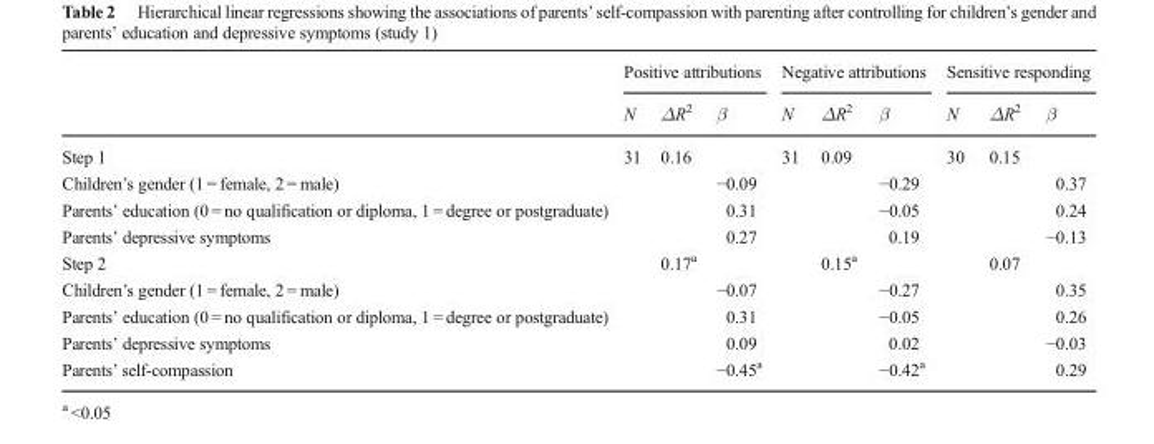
<table><thead><tr><td rowspan="2"></td><td colspan="3">Positive attributions</td><td colspan="3">Negative attributions</td><td colspan="3">Sensitive responding</td></tr><tr><td>N</td><td>ΔR<sup>2</sup></td><td>β</td><td>N</td><td>ΔR<sup>2</sup></td><td>β</td><td>N</td><td>ΔR<sup>2</sup></td><td>β</td></tr></thead><tbody><tr><td>Step 1</td><td>31</td><td>0.16</td><td></td><td>31</td><td>0.09</td><td></td><td>30</td><td>0.15</td><td></td></tr><tr><td>Children’s gender (1 = female, 2 = male)</td><td></td><td></td><td>−0.09</td><td></td><td></td><td>−0.29</td><td></td><td></td><td>0.37</td></tr><tr><td>Parents’ education (0 = no qualification or diploma, 1 = degree or postgraduate)</td><td></td><td></td><td>0.31</td><td></td><td></td><td>−0.05</td><td></td><td></td><td>0.24</td></tr><tr><td>Parents’ depressive symptoms</td><td></td><td></td><td>0.27</td><td></td><td></td><td>0.19</td><td></td><td></td><td>−0.13</td></tr><tr><td>Step 2</td><td></td><td>0.17<sup>a</sup></td><td></td><td></td><td>0.15<sup>a</sup></td><td></td><td></td><td>0.07</td><td></td></tr><tr><td>Children’s gender (1 = female, 2 = male)</td><td></td><td></td><td>−0.07</td><td></td><td></td><td>−0.27</td><td></td><td></td><td>0.35</td></tr><tr><td>Parents’ education (0 = no qualification or diploma, 1 = degree or postgraduate)</td><td></td><td></td><td>0.31</td><td></td><td></td><td>−0.05</td><td></td><td></td><td>0.26</td></tr><tr><td>Parents’ depressive symptoms</td><td></td><td></td><td>0.09</td><td></td><td></td><td>0.02</td><td></td><td></td><td>−0.03</td></tr><tr><td>Parents’ self-compassion</td><td></td><td></td><td>−0.45<sup>a</sup></td><td></td><td></td><td>−0.42<sup>a</sup></td><td></td><td></td><td>0.29</td></tr></tbody></table>